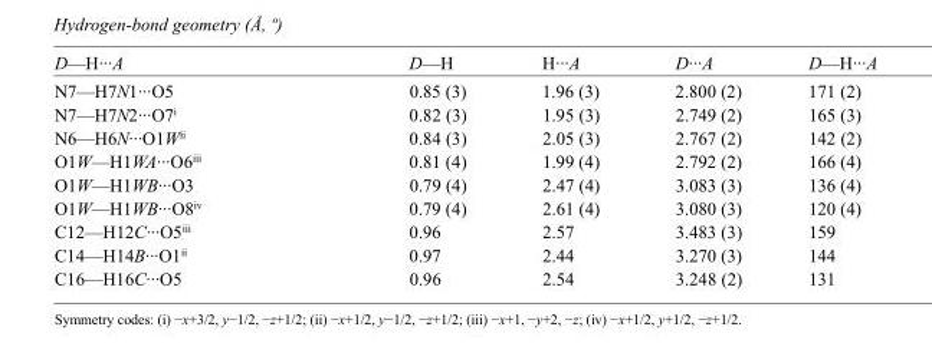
<table><tbody><tr><td>D—H···A</td><td>D—H</td><td>H···A</td><td>D···A</td><td>D—H···A</td></tr><tr><td>N7—H7N1···O5</td><td>0.85 (3)</td><td>1.96 (3)</td><td>2.800 (2)</td><td>171 (2)</td></tr><tr><td>N7—H7N2···O7<sup>i</sup></td><td>0.82 (3)</td><td>1.95 (3)</td><td>2.749 (2)</td><td>165 (3)</td></tr><tr><td>N6—H6N···O1W<sup>ii</sup></td><td>0.84 (3)</td><td>2.05 (3)</td><td>2.767 (2)</td><td>142 (2)</td></tr><tr><td>O1W—H1WA···O6<sup>iii</sup></td><td>0.81 (4)</td><td>1.99 (4)</td><td>2.792 (2)</td><td>166 (4)</td></tr><tr><td>O1W—H1WB···O3</td><td>0.79 (4)</td><td>2.47 (4)</td><td>3.083 (3)</td><td>136 (4)</td></tr><tr><td>O1W—H1WB···O8<sup>iv</sup></td><td>0.79 (4)</td><td>2.61 (4)</td><td>3.080 (3)</td><td>120 (4)</td></tr><tr><td>C12—H12C···O5<sup>iii</sup></td><td>0.96</td><td>2.57</td><td>3.483 (3)</td><td>159</td></tr><tr><td>C14—H14B···O1<sup>ii</sup></td><td>0.97</td><td>2.44</td><td>3.270 (3)</td><td>144</td></tr><tr><td>C16—H16C···O5</td><td>0.96</td><td>2.54</td><td>3.248 (2)</td><td>131</td></tr></tbody></table>